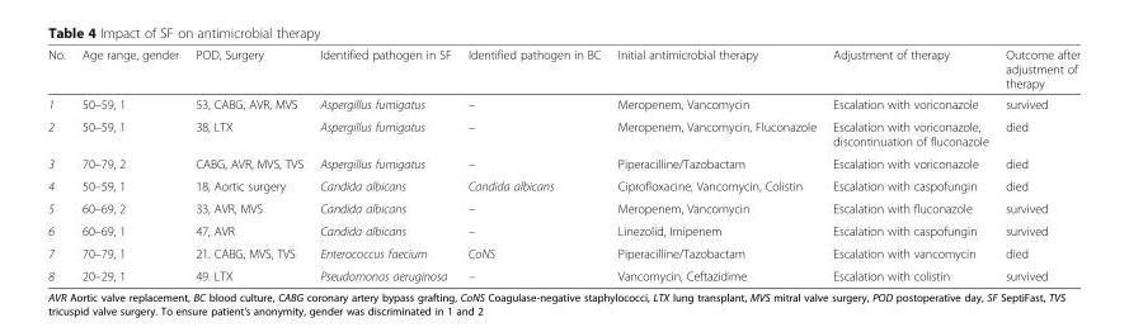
<table><thead><tr><td>No.</td><td>Age range, gender</td><td>POD, Surgery</td><td>Identified pathogen in SF</td><td>Identified pathogen in BC</td><td>Initial antimicrobial therapy</td><td>Adjustment of therapy</td><td>Outcome after adjustment of therapy</td></tr></thead><tbody><tr><td>1</td><td>50–59, 1</td><td>53, CABG, AVR, MVS</td><td>Aspergillus fumigatus</td><td>–</td><td>Meropenem, Vancomycin</td><td>Escalation with voriconazole</td><td>survived</td></tr><tr><td>2</td><td>50–59, 1</td><td>38, LTX</td><td>Aspergillus fumigatus</td><td>–</td><td>Meropenem, Vancomycin, Fluconazole</td><td>Escalation with voriconazole, discontinuation of fluconazole</td><td>died</td></tr><tr><td>3</td><td>70–79, 2</td><td>CABG, AVR, MVS, TVS</td><td>Aspergillus fumigatus</td><td>–</td><td>Piperacilline/Tazobactam</td><td>Escalation with voriconazole</td><td>died</td></tr><tr><td>4</td><td>50–59, 1</td><td>18, Aortic surgery</td><td>Candida albicans</td><td>Candida albicans</td><td>Ciprofloxacine, Vancomycin, Colistin</td><td>Escalation with caspofungin</td><td>died</td></tr><tr><td>5</td><td>60–69, 2</td><td>33, AVR, MVS</td><td>Candida albicans</td><td>–</td><td>Meropenem, Vancomycin</td><td>Escalation with fluconazole</td><td>survived</td></tr><tr><td>6</td><td>60–69, 1</td><td>47, AVR</td><td>Candida albicans</td><td>–</td><td>Linezolid, Imipenem</td><td>Escalation with caspofungin</td><td>survived</td></tr><tr><td>7</td><td>70–79, 1</td><td>21. CABG, MVS, TVS</td><td>Enterococcus faecium</td><td>CoNS</td><td>Piperacilline/Tazobactam</td><td>Escalation with vancomycin</td><td>died</td></tr><tr><td>8</td><td>20–29, 1</td><td>49. LTX</td><td>Pseudomonas aeruginosa</td><td>–</td><td>Vancomycin, Ceftazidime</td><td>Escalation with colistin</td><td>survived</td></tr></tbody></table>